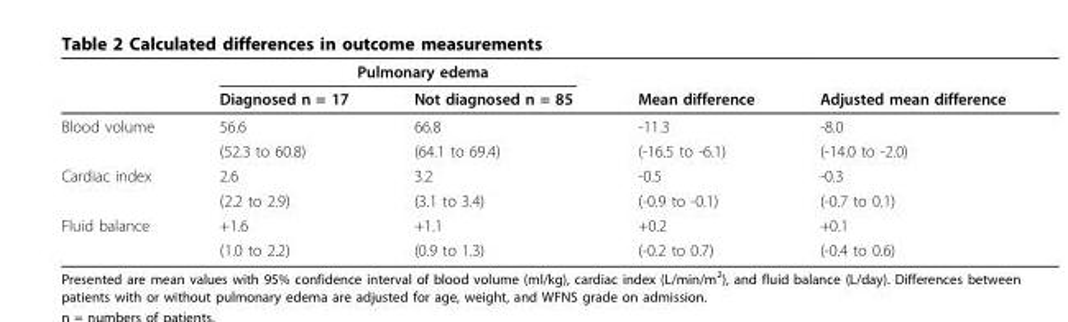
<table><thead><tr><td rowspan="2"></td><td colspan="2">Pulmonary edema</td><td rowspan="2">Mean difference</td><td rowspan="2">Adjusted mean difference</td></tr><tr><td>Diagnosed n = 17</td><td>Not diagnosed n = 85</td></tr></thead><tbody><tr><td rowspan="2">Blood volume</td><td>56.6</td><td>66.8</td><td>-11.3</td><td>-8.0</td></tr><tr><td>(52.3 to 60.8)</td><td>(64.1 to 69.4)</td><td>(-16.5 to -6.1)</td><td>(-14.0 to -2.0)</td></tr><tr><td rowspan="2">Cardiac index</td><td>2.6</td><td>3.2</td><td>-0.5</td><td>-0.3</td></tr><tr><td>(2.2 to 2.9)</td><td>(3.1 to 3.4)</td><td>(-0.9 to -0.1)</td><td>(-0.7 to 0.1)</td></tr><tr><td rowspan="2">Fluid balance</td><td>+1.6</td><td>+1.1</td><td>+0.2</td><td>+0.1</td></tr><tr><td>(1.0 to 2.2)</td><td>(0.9 to 1.3)</td><td>(-0.2 to 0.7)</td><td>(-0.4 to 0.6)</td></tr></tbody></table>